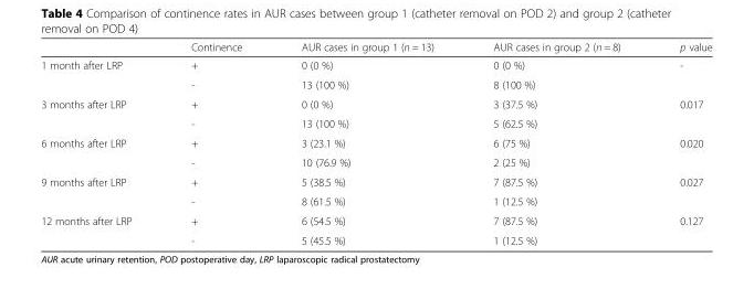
<table><thead><tr><td></td><td>Continence</td><td>AUR cases in group 1 (n = 13)</td><td>AUR cases in group 2 (n = 8)</td><td>p value</td></tr></thead><tbody><tr><td rowspan="2">1 month after LRP</td><td>+</td><td>0 (0 %)</td><td>0 (0 %)</td><td>-</td></tr><tr><td>-</td><td>13 (100 %)</td><td>8 (100 %)</td><td></td></tr><tr><td rowspan="2">3 months after LRP</td><td>+</td><td>0 (0 %)</td><td>3 (37.5 %)</td><td>0.017</td></tr><tr><td>-</td><td>13 (100 %)</td><td>5 (62.5 %)</td><td></td></tr><tr><td rowspan="2">6 months after LRP</td><td>+</td><td>3 (23.1 %)</td><td>6 (75 %)</td><td>0.020</td></tr><tr><td>-</td><td>10 (76.9 %)</td><td>2 (25 %)</td><td></td></tr><tr><td rowspan="2">9 months after LRP</td><td>+</td><td>5 (38.5 %)</td><td>7 (87.5 %)</td><td>0.027</td></tr><tr><td>-</td><td>8 (61.5 %)</td><td>1 (12.5 %)</td><td></td></tr><tr><td rowspan="2">12 months after LRP</td><td>+</td><td>6 (54.5 %)</td><td>7 (87.5 %)</td><td>0.127</td></tr><tr><td>-</td><td>5 (45.5 %)</td><td>1 (12.5 %)</td><td></td></tr></tbody></table>